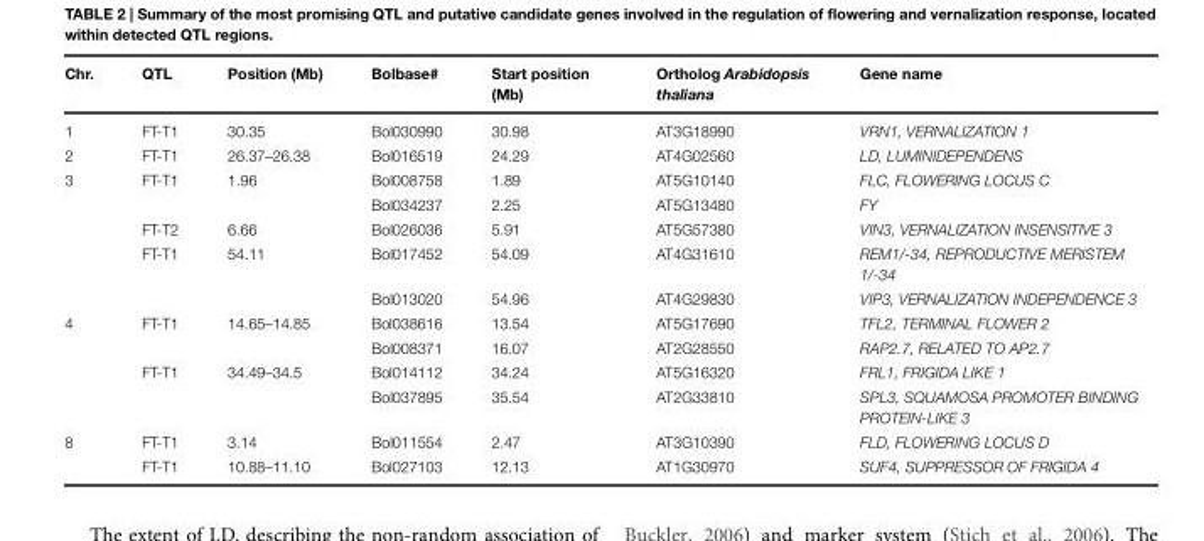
<table><thead><tr><td>Chr.</td><td>QTL</td><td>Position (Mb)</td><td>Bolbase#</td><td>Start position (Mb)</td><td>Ortholog Arabidopsis thaliana</td><td>Gene name</td></tr></thead><tbody><tr><td>1</td><td>FT-T1</td><td>30.35</td><td>Bol030990</td><td>30.98</td><td>AT3G18990</td><td>VRN1, VERNALIZATION 1</td></tr><tr><td>2</td><td>FT-T1</td><td>26.37–26.38</td><td>Bol016519</td><td>24.29</td><td>AT4G02560</td><td>LD, LUMINIDEPENDENS</td></tr><tr><td rowspan="5">3</td><td>FT-T1</td><td>1.96</td><td>Bol008758</td><td>1.89</td><td>AT5G10140</td><td>FLC, FLOWERING LOCUS C</td></tr><tr><td></td><td></td><td>Bol034237</td><td>2.25</td><td>AT5G13480</td><td>FY</td></tr><tr><td>FT-T2</td><td>6.66</td><td>Bol026036</td><td>5.91</td><td>AT5G57380</td><td>VIN3, VERNALIZATION INSENSITIVE 3</td></tr><tr><td>FT-T1</td><td>54.11</td><td>Bol017452</td><td>54.09</td><td>AT4G31610</td><td>REM1/-34, REPRODUCTIVE MERISTEM 1/-34</td></tr><tr><td></td><td></td><td>Bol013020</td><td>54.96</td><td>AT4G29830</td><td>VIP3, VERNALIZATION INDEPENDENCE 3</td></tr><tr><td rowspan="4">4</td><td>FT-T1</td><td>14.65–14.85</td><td>Bol038616</td><td>13.54</td><td>AT5G17690</td><td>TFL2, TERMINAL FLOWER 2</td></tr><tr><td></td><td></td><td>Bol008371</td><td>16.07</td><td>AT2G28550</td><td>RAP2.7, RELATED TO AP2.7</td></tr><tr><td>FT-T1</td><td>34.49–34.5</td><td>Bol014112</td><td>34.24</td><td>AT5G16320</td><td>FRL1, FRIGIDA LIKE 1</td></tr><tr><td></td><td></td><td>Bol037895</td><td>35.54</td><td>AT2G33810</td><td>SPL3, SQUAMOSA PROMOTER BINDING PROTEIN-LIKE 3</td></tr><tr><td rowspan="2">8</td><td>FT-T1</td><td>3.14</td><td>Bol011554</td><td>2.47</td><td>AT3G10390</td><td>FLD, FLOWERING LOCUS D</td></tr><tr><td>FT-T1</td><td>10.88–11.10</td><td>Bol027103</td><td>12.13</td><td>AT1G30970</td><td>SUF4, SUPPRESSOR OF FRIGIDA 4</td></tr></tbody></table>